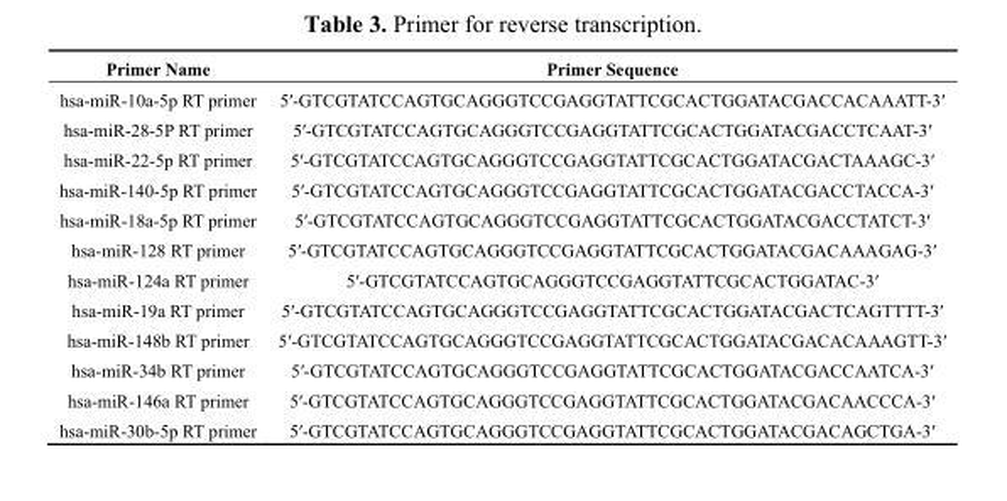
<table><thead><tr><td>Primer Name</td><td>Primer Sequence</td></tr></thead><tbody><tr><td>hsa-miR-10a-5p RT primer</td><td>5′-GTCGTATCCAGTGCAGGGTCCGAGGTATTCGCACTGGATACGACCACAAATT-3′</td></tr><tr><td>hsa-miR-28-5P RT primer</td><td>5′-GTCGTATCCAGTGCAGGGTCCGAGGTATTCGCACTGGATACGACCTCAAT-3′</td></tr><tr><td>hsa-miR-22-5p RT primer</td><td>5′-GTCGTATCCAGTGCAGGGTCCGAGGTATTCGCACTGGATACGACTAAAGC-3′</td></tr><tr><td>hsa-miR-140-5p RT primer</td><td>5′-GTCGTATCCAGTGCAGGGTCCGAGGTATTCGCACTGGATACGACCTACCA-3′</td></tr><tr><td>hsa-miR-18a-5p RT primer</td><td>5′-GTCGTATCCAGTGCAGGGTCCGAGGTATTCGCACTGGATACGACCTATCT-3′</td></tr><tr><td>hsa-miR-128 RT primer</td><td>5′-GTCGTATCCAGTGCAGGGTCCGAGGTATTCGCACTGGATACGACAAAGAG-3′</td></tr><tr><td>hsa-miR-124a RT primer</td><td>5′-GTCGTATCCAGTGCAGGGTCCGAGGTATTCGCACTGGATAC-3′</td></tr><tr><td>hsa-miR-19a RT primer</td><td>5′-GTCGTATCCAGTGCAGGGTCCGAGGTATTCGCACTGGATACGACTCAGTTTT-3′</td></tr><tr><td>hsa-miR-148b RT primer</td><td>5′-GTCGTATCCAGTGCAGGGTCCGAGGTATTCGCACTGGATACGACACAAAGTT-3′</td></tr><tr><td>hsa-miR-34b RT primer</td><td>5′-GTCGTATCCAGTGCAGGGTCCGAGGTATTCGCACTGGATACGACCAATCA-3′</td></tr><tr><td>hsa-miR-146a RT primer</td><td>5′-GTCGTATCCAGTGCAGGGTCCGAGGTATTCGCACTGGATACGACAACCCA-3′</td></tr><tr><td>hsa-miR-30b-5p RT primer</td><td>5′-GTCGTATCCAGTGCAGGGTCCGAGGTATTCGCACTGGATACGACAGCTGA-3′</td></tr></tbody></table>